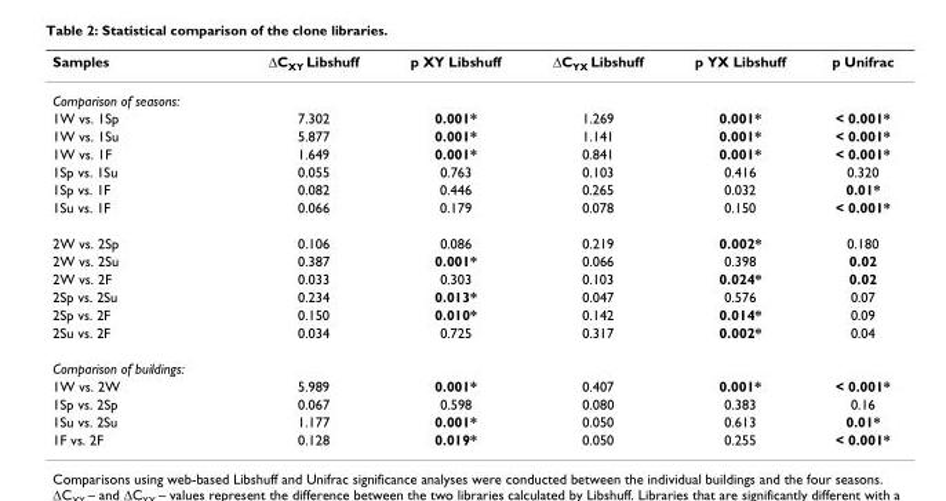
<table><thead><tr><td>Samples</td><td>∆CXY Libshuff</td><td>p XY Libshuff</td><td>∆CYX Libshuff</td><td>p YX Libshuff</td><td>p Unifrac</td></tr></thead><tbody><tr><td colspan="6">Comparison of seasons:</td></tr><tr><td>1W vs. 1Sp</td><td>7.302</td><td>0.001*</td><td>1.269</td><td>0.001*</td><td>&lt; 0.001*</td></tr><tr><td>1W vs. 1Su</td><td>5.877</td><td>0.001*</td><td>1.141</td><td>0.001*</td><td>&lt; 0.001*</td></tr><tr><td>1W vs. 1F</td><td>1.649</td><td>0.001*</td><td>0.841</td><td>0.001*</td><td>&lt; 0.001*</td></tr><tr><td>1Sp vs. 1Su</td><td>0.055</td><td>0.763</td><td>0.103</td><td>0.416</td><td>0.320</td></tr><tr><td>1Sp vs. 1F</td><td>0.082</td><td>0.446</td><td>0.265</td><td>0.032</td><td>0.01*</td></tr><tr><td>1Su vs. 1F</td><td>0.066</td><td>0.179</td><td>0.078</td><td>0.150</td><td>&lt; 0.001*</td></tr><tr><td>2W vs. 2Sp</td><td>0.106</td><td>0.086</td><td>0.219</td><td>0.002*</td><td>0.180</td></tr><tr><td>2W vs. 2Su</td><td>0.387</td><td>0.001*</td><td>0.066</td><td>0.398</td><td>0.02</td></tr><tr><td>2W vs. 2F</td><td>0.033</td><td>0.303</td><td>0.103</td><td>0.024*</td><td>0.02</td></tr><tr><td>2Sp vs. 2Su</td><td>0.234</td><td>0.013*</td><td>0.047</td><td>0.576</td><td>0.07</td></tr><tr><td>2Sp vs. 2F</td><td>0.150</td><td>0.010*</td><td>0.142</td><td>0.014*</td><td>0.09</td></tr><tr><td>2Su vs. 2F</td><td>0.034</td><td>0.725</td><td>0.317</td><td>0.002*</td><td>0.04</td></tr><tr><td colspan="6">Comparison of buildings:</td></tr><tr><td>1W vs. 2W</td><td>5.989</td><td>0.001*</td><td>0.407</td><td>0.001*</td><td>&lt; 0.001*</td></tr><tr><td>1Sp vs. 2Sp</td><td>0.067</td><td>0.598</td><td>0.080</td><td>0.383</td><td>0.16</td></tr><tr><td>1Su vs. 2Su</td><td>1.177</td><td>0.001*</td><td>0.050</td><td>0.613</td><td>0.01*</td></tr><tr><td>1F vs. 2F</td><td>0.128</td><td>0.019*</td><td>0.050</td><td>0.255</td><td>&lt; 0.001*</td></tr></tbody></table>